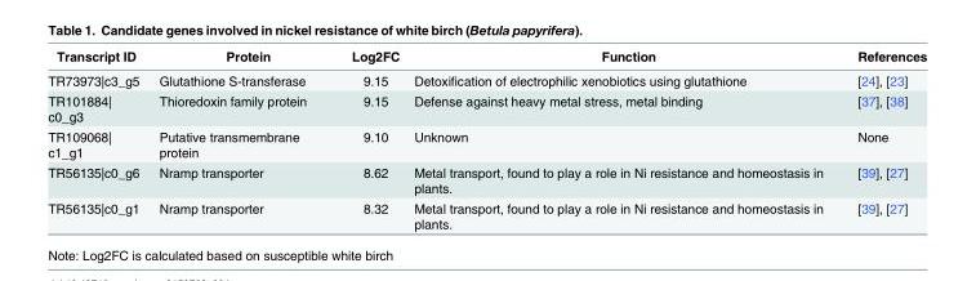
<table><thead><tr><td>Transcript ID</td><td>Protein</td><td>Log2FC</td><td>Function</td><td>References</td></tr></thead><tbody><tr><td>TR73973|c3_g5</td><td>Glutathione S-transferase</td><td>9.15</td><td>Detoxification of electrophilic xenobiotics using glutathione</td><td>[24], [23]</td></tr><tr><td>TR101884| c0_g3</td><td>Thioredoxin family protein</td><td>9.15</td><td>Defense against heavy metal stress, metal binding</td><td>[37], [38]</td></tr><tr><td>TR109068| c1_g1</td><td>Putative transmembrane protein</td><td>9.10</td><td>Unknown</td><td>None</td></tr><tr><td>TR56135|c0_g6</td><td>Nramp transporter</td><td>8.62</td><td>Metal transport, found to play a role in Ni resistance and homeostasis in plants.</td><td>[39], [27]</td></tr><tr><td>TR56135|c0_g1</td><td>Nramp transporter</td><td>8.32</td><td>Metal transport, found to play a role in Ni resistance and homeostasis in plants.</td><td>[39], [27]</td></tr></tbody></table>